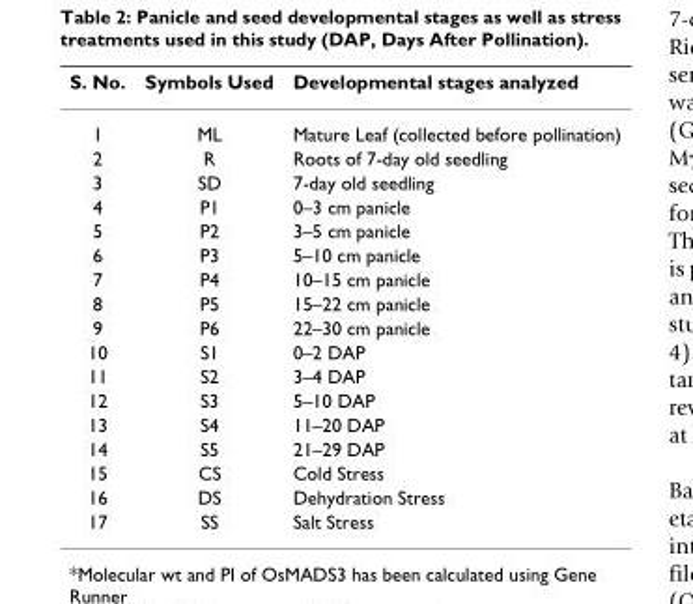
<table><thead><tr><td>S. No.</td><td>Symbols Used</td><td>Developmental stages analyzed</td></tr></thead><tbody><tr><td>1</td><td>ML</td><td>Mature Leaf (collected before pollination)</td></tr><tr><td>2</td><td>R</td><td>Roots of 7-day old seedling</td></tr><tr><td>3</td><td>SD</td><td>7-day old seedling</td></tr><tr><td>4</td><td>P1</td><td>0–3 cm panicle</td></tr><tr><td>5</td><td>P2</td><td>3–5 cm panicle</td></tr><tr><td>6</td><td>P3</td><td>5–10 cm panicle</td></tr><tr><td>7</td><td>P4</td><td>10–15 cm panicle</td></tr><tr><td>8</td><td>P5</td><td>15–22 cm panicle</td></tr><tr><td>9</td><td>P6</td><td>22–30 cm panicle</td></tr><tr><td>10</td><td>S1</td><td>0–2 DAP</td></tr><tr><td>11</td><td>S2</td><td>3–4 DAP</td></tr><tr><td>12</td><td>S3</td><td>5–10 DAP</td></tr><tr><td>13</td><td>S4</td><td>11–20 DAP</td></tr><tr><td>14</td><td>S5</td><td>21–29 DAP</td></tr><tr><td>15</td><td>CS</td><td>Cold Stress</td></tr><tr><td>16</td><td>DS</td><td>Dehydration Stress</td></tr><tr><td>17</td><td>SS</td><td>Salt Stress</td></tr></tbody></table>